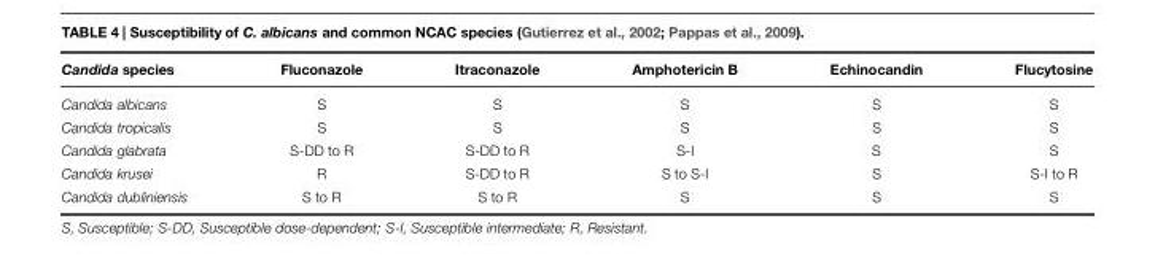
<table><thead><tr><td>Candida species</td><td>Fluconazole</td><td>Itraconazole</td><td>Amphotericin B</td><td>Echinocandin</td><td>Flucytosine</td></tr></thead><tbody><tr><td>Candida albicans</td><td>S</td><td>S</td><td>S</td><td>S</td><td>S</td></tr><tr><td>Candida tropicalis</td><td>S</td><td>S</td><td>S</td><td>S</td><td>S</td></tr><tr><td>Candida glabrata</td><td>S-DD to R</td><td>S-DD to R</td><td>S-I</td><td>S</td><td>S</td></tr><tr><td>Candida krusei</td><td>R</td><td>S-DD to R</td><td>S to S-I</td><td>S</td><td>S-I to R</td></tr><tr><td>Candida dubliniensis</td><td>S to R</td><td>S to R</td><td>S</td><td>S</td><td>S</td></tr></tbody></table>